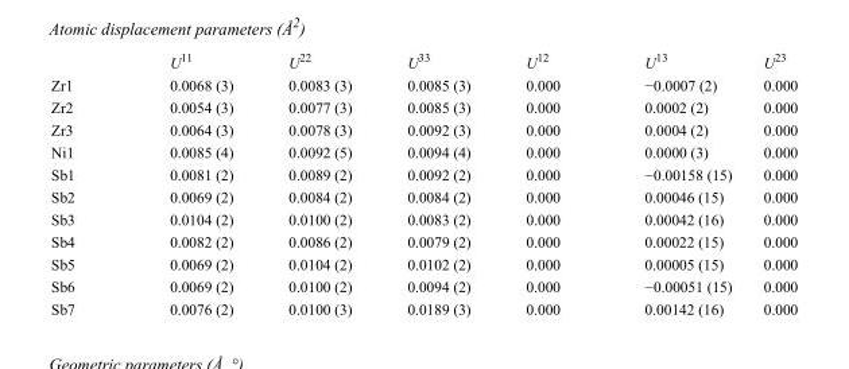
<table><thead><tr><td></td><td>U<sup>11</sup></td><td>U<sup>22</sup></td><td>U<sup>33</sup></td><td>U<sup>12</sup></td><td>U<sup>13</sup></td><td>U<sup>23</sup></td></tr></thead><tbody><tr><td>Zr1</td><td>0.0068 (3)</td><td>0.0083 (3)</td><td>0.0085 (3)</td><td>0.000</td><td>−0.0007 (2)</td><td>0.000</td></tr><tr><td>Zr2</td><td>0.0054 (3)</td><td>0.0077 (3)</td><td>0.0085 (3)</td><td>0.000</td><td>0.0002 (2)</td><td>0.000</td></tr><tr><td>Zr3</td><td>0.0064 (3)</td><td>0.0078 (3)</td><td>0.0092 (3)</td><td>0.000</td><td>0.0004 (2)</td><td>0.000</td></tr><tr><td>Ni1</td><td>0.0085 (4)</td><td>0.0092 (5)</td><td>0.0094 (4)</td><td>0.000</td><td>0.0000 (3)</td><td>0.000</td></tr><tr><td>Sb1</td><td>0.0081 (2)</td><td>0.0089 (2)</td><td>0.0092 (2)</td><td>0.000</td><td>−0.00158 (15)</td><td>0.000</td></tr><tr><td>Sb2</td><td>0.0069 (2)</td><td>0.0084 (2)</td><td>0.0084 (2)</td><td>0.000</td><td>0.00046 (15)</td><td>0.000</td></tr><tr><td>Sb3</td><td>0.0104 (2)</td><td>0.0100 (2)</td><td>0.0083 (2)</td><td>0.000</td><td>0.00042 (16)</td><td>0.000</td></tr><tr><td>Sb4</td><td>0.0082 (2)</td><td>0.0086 (2)</td><td>0.0079 (2)</td><td>0.000</td><td>0.00022 (15)</td><td>0.000</td></tr><tr><td>Sb5</td><td>0.0069 (2)</td><td>0.0104 (2)</td><td>0.0102 (2)</td><td>0.000</td><td>0.00005 (15)</td><td>0.000</td></tr><tr><td>Sb6</td><td>0.0069 (2)</td><td>0.0100 (2)</td><td>0.0094 (2)</td><td>0.000</td><td>−0.00051 (15)</td><td>0.000</td></tr><tr><td>Sb7</td><td>0.0076 (2)</td><td>0.0100 (3)</td><td>0.0189 (3)</td><td>0.000</td><td>0.00142 (16)</td><td>0.000</td></tr></tbody></table>